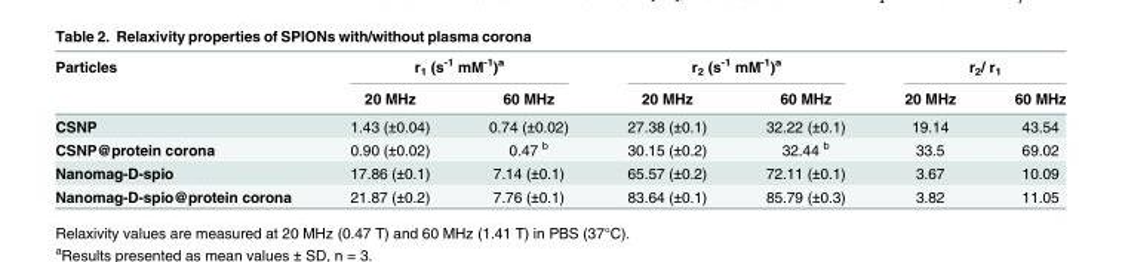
<table><thead><tr><td rowspan="2">Particles</td><td colspan="2">r<sub>1</sub> (s<sup>-1</sup> mM<sup>-1</sup>)<sup>a</sup></td><td colspan="2">r<sub>2</sub> (s<sup>-1</sup> mM<sup>-1</sup>)<sup>a</sup></td><td colspan="2">r<sub>2</sub>/ r<sub>1</sub></td></tr><tr><td>20 MHz</td><td>60 MHz</td><td>20 MHz</td><td>60 MHz</td><td>20 MHz</td><td>60 MHz</td></tr></thead><tbody><tr><td>CSNP</td><td>1.43 (±0.04)</td><td>0.74 (±0.02)</td><td>27.38 (±0.1)</td><td>32.22 (±0.1)</td><td>19.14</td><td>43.54</td></tr><tr><td>CSNP@protein corona</td><td>0.90 (±0.02)</td><td>0.47 <sup>b</sup></td><td>30.15 (±0.2)</td><td>32.44 <sup>b</sup></td><td>33.5</td><td>69.02</td></tr><tr><td>Nanomag-D-spio</td><td>17.86 (±0.1)</td><td>7.14 (±0.1)</td><td>65.57 (±0.2)</td><td>72.11 (±0.1)</td><td>3.67</td><td>10.09</td></tr><tr><td>Nanomag-D-spio@protein corona</td><td>21.87 (±0.2)</td><td>7.76 (±0.1)</td><td>83.64 (±0.1)</td><td>85.79 (±0.3)</td><td>3.82</td><td>11.05</td></tr></tbody></table>